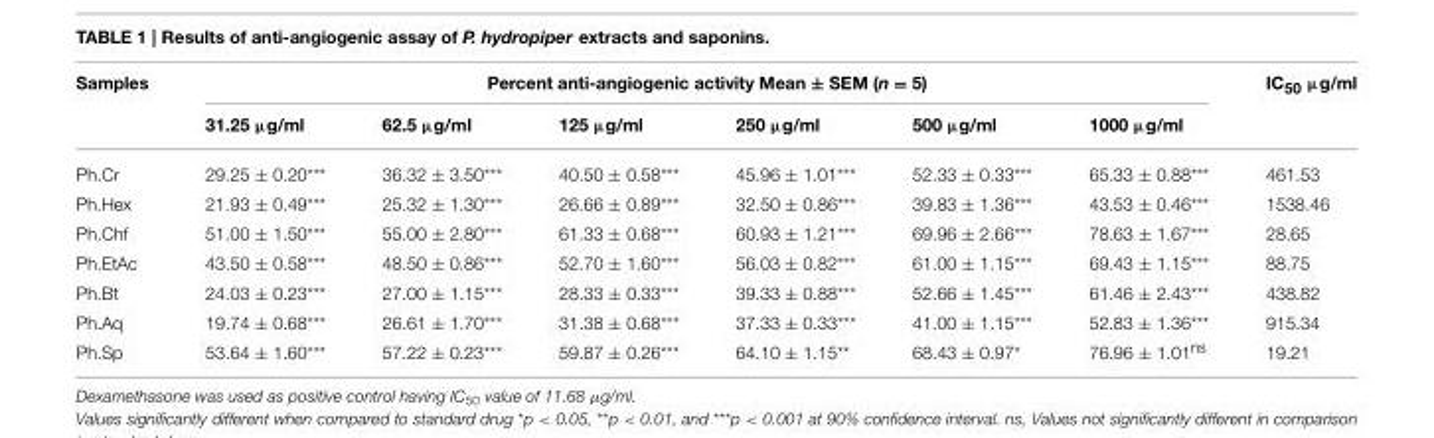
<table><thead><tr><td rowspan="2">Samples</td><td colspan="6">Percent anti-angiogenic activity Mean ± SEM (n = 5)</td><td rowspan="2">IC<sub>50</sub> µg/ml</td></tr><tr><td>31.25 µg/ml</td><td>62.5 µg/ml</td><td>125 µg/ml</td><td>250 µg/ml</td><td>500 µg/ml</td><td>1000 µg/ml</td></tr></thead><tbody><tr><td>Ph.Cr</td><td>29.25 ± 0.20***</td><td>36.32 ± 3.50***</td><td>40.50 ± 0.58***</td><td>45.96 ± 1.01***</td><td>52.33 ± 0.33***</td><td>65.33 ± 0.88***</td><td>461.53</td></tr><tr><td>Ph.Hex</td><td>21.93 ± 0.49***</td><td>25.32 ± 1.30***</td><td>26.66 ± 0.89***</td><td>32.50 ± 0.86***</td><td>39.83 ± 1.36***</td><td>43.53 ± 0.46***</td><td>1538.46</td></tr><tr><td>Ph.Chf</td><td>51.00 ± 1.50***</td><td>55.00 ± 2.80***</td><td>61.33 ± 0.68***</td><td>60.93 ± 1.21***</td><td>69.96 ± 2.66***</td><td>78.63 ± 1.67***</td><td>28.65</td></tr><tr><td>Ph.EtAc</td><td>43.50 ± 0.58***</td><td>48.50 ± 0.86***</td><td>52.70 ± 1.60***</td><td>56.03 ± 0.82***</td><td>61.00 ± 1.15***</td><td>69.43 ± 1.15***</td><td>88.75</td></tr><tr><td>Ph.Bt</td><td>24.03 ± 0.23***</td><td>27.00 ± 1.15***</td><td>28.33 ± 0.33***</td><td>39.33 ± 0.88***</td><td>52.66 ± 1.45***</td><td>61.46 ± 2.43***</td><td>438.82</td></tr><tr><td>Ph.Aq</td><td>19.74 ± 0.68***</td><td>26.61 ± 1.70***</td><td>31.38 ± 0.68***</td><td>37.33 ± 0.33***</td><td>41.00 ± 1.15***</td><td>52.83 ± 1.36***</td><td>915.34</td></tr><tr><td>Ph.Sp</td><td>53.64 ± 1.60***</td><td>57.22 ± 0.23***</td><td>59.87 ± 0.26***</td><td>64.10 ± 1.15**</td><td>68.43 ± 0.97*</td><td>76.96 ± 1.01<sup>ns</sup></td><td>19.21</td></tr></tbody></table>